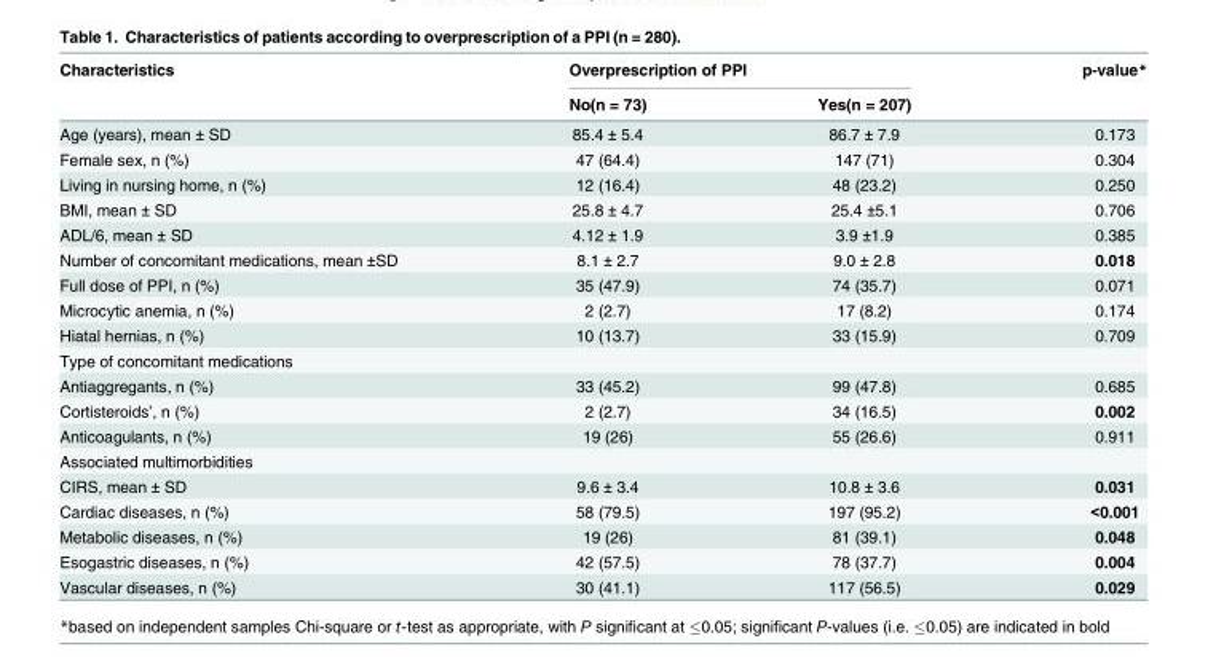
<table><thead><tr><td rowspan="2">Characteristics</td><td colspan="2">Overprescription of PPI</td><td rowspan="2">p-value*</td></tr><tr><td>No(n = 73)</td><td>Yes(n = 207)</td></tr></thead><tbody><tr><td>Age (years), mean ± SD</td><td>85.4 ± 5.4</td><td>86.7 ± 7.9</td><td>0.173</td></tr><tr><td>Female sex, n (%)</td><td>47 (64.4)</td><td>147 (71)</td><td>0.304</td></tr><tr><td>Living in nursing home, n (%)</td><td>12 (16.4)</td><td>48 (23.2)</td><td>0.250</td></tr><tr><td>BMI, mean ± SD</td><td>25.8 ± 4.7</td><td>25.4 ±5.1</td><td>0.706</td></tr><tr><td>ADL/6, mean ± SD</td><td>4.12 ± 1.9</td><td>3.9 ±1.9</td><td>0.385</td></tr><tr><td>Number of concomitant medications, mean ±SD</td><td>8.1 ± 2.7</td><td>9.0 ± 2.8</td><td>0.018</td></tr><tr><td>Full dose of PPI, n (%)</td><td>35 (47.9)</td><td>74 (35.7)</td><td>0.071</td></tr><tr><td>Microcytic anemia, n (%)</td><td>2 (2.7)</td><td>17 (8.2)</td><td>0.174</td></tr><tr><td>Hiatal hernias, n (%)</td><td>10 (13.7)</td><td>33 (15.9)</td><td>0.709</td></tr><tr><td colspan="4">Type of concomitant medications</td></tr><tr><td>Antiaggregants, n (%)</td><td>33 (45.2)</td><td>99 (47.8)</td><td>0.685</td></tr><tr><td>Cortisteroids’, n (%)</td><td>2 (2.7)</td><td>34 (16.5)</td><td>0.002</td></tr><tr><td>Anticoagulants, n (%)</td><td>19 (26)</td><td>55 (26.6)</td><td>0.911</td></tr><tr><td colspan="4">Associated multimorbidities</td></tr><tr><td>CIRS, mean ± SD</td><td>9.6 ± 3.4</td><td>10.8 ± 3.6</td><td>0.031</td></tr><tr><td>Cardiac diseases, n (%)</td><td>58 (79.5)</td><td>197 (95.2)</td><td>&lt;0.001</td></tr><tr><td>Metabolic diseases, n (%)</td><td>19 (26)</td><td>81 (39.1)</td><td>0.048</td></tr><tr><td>Esogastric diseases, n (%)</td><td>42 (57.5)</td><td>78 (37.7)</td><td>0.004</td></tr><tr><td>Vascular diseases, n (%)</td><td>30 (41.1)</td><td>117 (56.5)</td><td>0.029</td></tr></tbody></table>